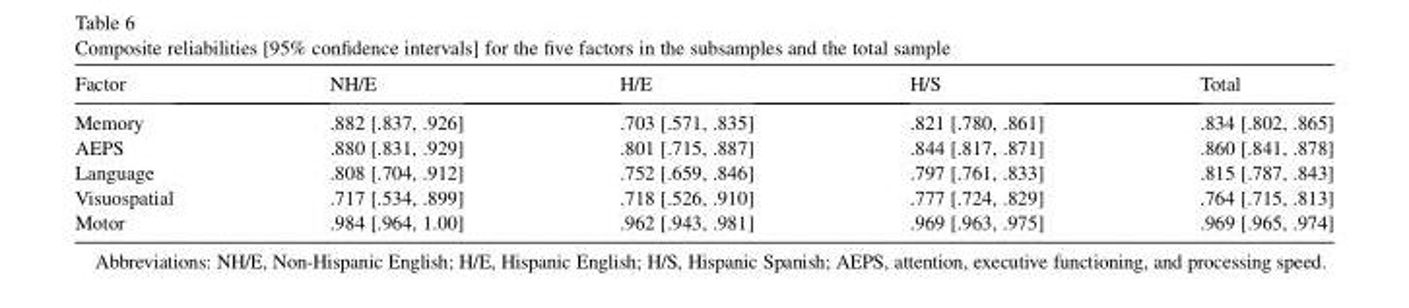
<table><thead><tr><td>Factor</td><td>NH/E</td><td>H/E</td><td>H/S</td><td>Total</td></tr></thead><tbody><tr><td>Memory</td><td>.882 [.837, .926]</td><td>.703 [.571, .835]</td><td>.821 [.780, .861]</td><td>.834 [.802, .865]</td></tr><tr><td>AEPS</td><td>.880 [.831, .929]</td><td>.801 [.715, .887]</td><td>.844 [.817, .871]</td><td>.860 [.841, .878]</td></tr><tr><td>Language</td><td>.808 [.704, .912]</td><td>.752 [.659, .846]</td><td>.797 [.761, .833]</td><td>.815 [.787, .843]</td></tr><tr><td>Visuospatial</td><td>.717 [.534, .899]</td><td>.718 [.526, .910]</td><td>.777 [.724, .829]</td><td>.764 [.715, .813]</td></tr><tr><td>Motor</td><td>.984 [.964, 1.00]</td><td>.962 [.943, .981]</td><td>.969 [.963, .975]</td><td>.969 [.965, .974]</td></tr></tbody></table>